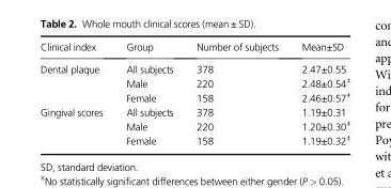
<table><thead><tr><td>Clinical index</td><td>Group</td><td>Number of subjects</td><td>Mean±SD</td></tr></thead><tbody><tr><td rowspan="3">Dental plaque</td><td>All subjects</td><td>378</td><td>2.47±0.55</td></tr><tr><td>Male</td><td>220</td><td>2.48±0.54‡</td></tr><tr><td>Female</td><td>158</td><td>2.46±0.57‡</td></tr><tr><td rowspan="3">Gingival scores</td><td>All subjects</td><td>378</td><td>1.19±0.31</td></tr><tr><td>Male</td><td>220</td><td>1.20±0.30‡</td></tr><tr><td>Female</td><td>158</td><td>1.19±0.32‡</td></tr></tbody></table>